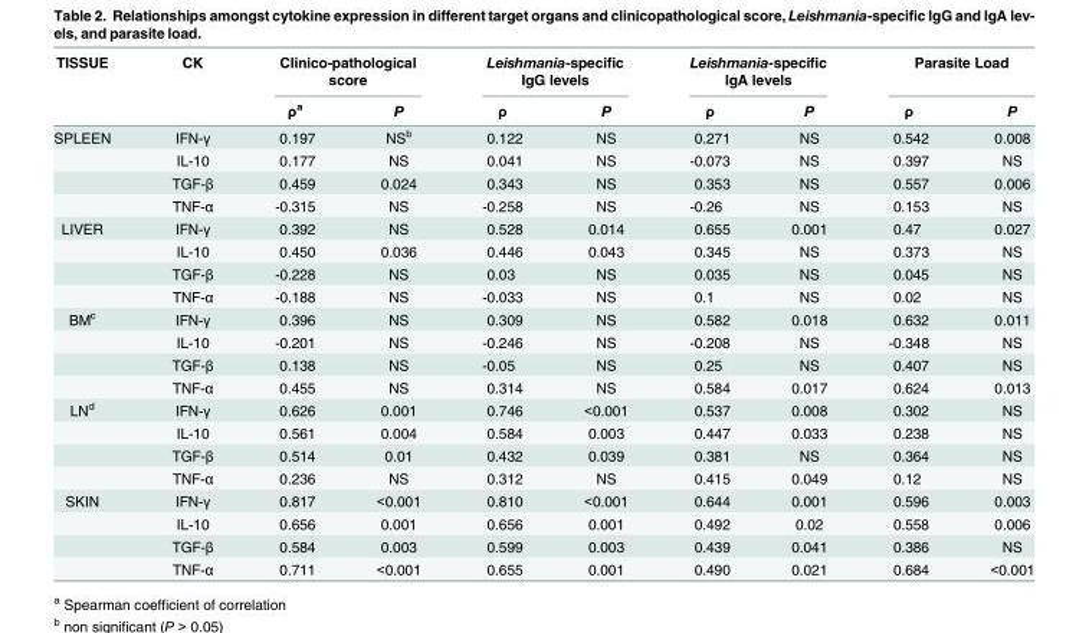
<table><thead><tr><td rowspan="2">TISSUE</td><td rowspan="2">CK</td><td colspan="2">Clinico-pathological score</td><td colspan="2">Leishmania-specific IgG levels</td><td colspan="2">Leishmania-specific IgA levels</td><td colspan="2">Parasite Load</td></tr><tr><td>ρ<sup>a</sup></td><td>P</td><td>ρ</td><td>P</td><td>ρ</td><td>P</td><td>ρ</td><td>P</td></tr></thead><tbody><tr><td rowspan="4">SPLEEN</td><td>IFN-γ</td><td>0.197</td><td>NS<sup>b</sup></td><td>0.122</td><td>NS</td><td>0.271</td><td>NS</td><td>0.542</td><td>0.008</td></tr><tr><td>IL-10</td><td>0.177</td><td>NS</td><td>0.041</td><td>NS</td><td>-0.073</td><td>NS</td><td>0.397</td><td>NS</td></tr><tr><td>TGF-β</td><td>0.459</td><td>0.024</td><td>0.343</td><td>NS</td><td>0.353</td><td>NS</td><td>0.557</td><td>0.006</td></tr><tr><td>TNF-α</td><td>-0.315</td><td>NS</td><td>-0.258</td><td>NS</td><td>-0.26</td><td>NS</td><td>0.153</td><td>NS</td></tr><tr><td rowspan="4">LIVER</td><td>IFN-γ</td><td>0.392</td><td>NS</td><td>0.528</td><td>0.014</td><td>0.655</td><td>0.001</td><td>0.47</td><td>0.027</td></tr><tr><td>IL-10</td><td>0.450</td><td>0.036</td><td>0.446</td><td>0.043</td><td>0.345</td><td>NS</td><td>0.373</td><td>NS</td></tr><tr><td>TGF-β</td><td>-0.228</td><td>NS</td><td>0.03</td><td>NS</td><td>0.035</td><td>NS</td><td>0.045</td><td>NS</td></tr><tr><td>TNF-α</td><td>-0.188</td><td>NS</td><td>-0.033</td><td>NS</td><td>0.1</td><td>NS</td><td>0.02</td><td>NS</td></tr><tr><td rowspan="4">BM<sup>c</sup></td><td>IFN-γ</td><td>0.396</td><td>NS</td><td>0.309</td><td>NS</td><td>0.582</td><td>0.018</td><td>0.632</td><td>0.011</td></tr><tr><td>IL-10</td><td>-0.201</td><td>NS</td><td>-0.246</td><td>NS</td><td>-0.208</td><td>NS</td><td>-0.348</td><td>NS</td></tr><tr><td>TGF-β</td><td>0.138</td><td>NS</td><td>-0.05</td><td>NS</td><td>0.25</td><td>NS</td><td>0.407</td><td>NS</td></tr><tr><td>TNF-α</td><td>0.455</td><td>NS</td><td>0.314</td><td>NS</td><td>0.584</td><td>0.017</td><td>0.624</td><td>0.013</td></tr><tr><td rowspan="4">LN<sup>d</sup></td><td>IFN-γ</td><td>0.626</td><td>0.001</td><td>0.746</td><td>&lt;0.001</td><td>0.537</td><td>0.008</td><td>0.302</td><td>NS</td></tr><tr><td>IL-10</td><td>0.561</td><td>0.004</td><td>0.584</td><td>0.003</td><td>0.447</td><td>0.033</td><td>0.238</td><td>NS</td></tr><tr><td>TGF-β</td><td>0.514</td><td>0.01</td><td>0.432</td><td>0.039</td><td>0.381</td><td>NS</td><td>0.364</td><td>NS</td></tr><tr><td>TNF-α</td><td>0.236</td><td>NS</td><td>0.312</td><td>NS</td><td>0.415</td><td>0.049</td><td>0.12</td><td>NS</td></tr><tr><td rowspan="4">SKIN</td><td>IFN-γ</td><td>0.817</td><td>&lt;0.001</td><td>0.810</td><td>&lt;0.001</td><td>0.644</td><td>0.001</td><td>0.596</td><td>0.003</td></tr><tr><td>IL-10</td><td>0.656</td><td>0.001</td><td>0.656</td><td>0.001</td><td>0.492</td><td>0.02</td><td>0.558</td><td>0.006</td></tr><tr><td>TGF-β</td><td>0.584</td><td>0.003</td><td>0.599</td><td>0.003</td><td>0.439</td><td>0.041</td><td>0.386</td><td>NS</td></tr><tr><td>TNF-α</td><td>0.711</td><td>&lt;0.001</td><td>0.655</td><td>0.001</td><td>0.490</td><td>0.021</td><td>0.684</td><td>&lt;0.001</td></tr></tbody></table>